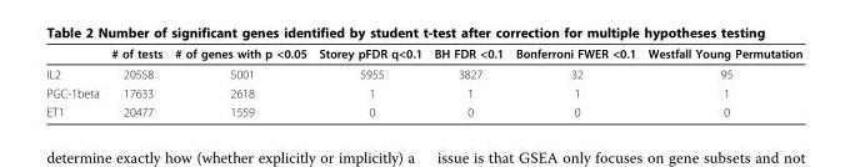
<table><thead><tr><td></td><td># of tests</td><td># of genes with p &lt;0.05</td><td>Storey pFDR q&lt;0.1</td><td>BH FDR &lt;0.1</td><td>Bonferroni FWER &lt;0.1</td><td>Westfall Young Permutation</td></tr></thead><tbody><tr><td>IL2</td><td>20558</td><td>5001</td><td>5955</td><td>3827</td><td>32</td><td>95</td></tr><tr><td>PGC-1beta</td><td>17633</td><td>2618</td><td>1</td><td>1</td><td>1</td><td>1</td></tr><tr><td>ET1</td><td>20477</td><td>1559</td><td>0</td><td>0</td><td>0</td><td>0</td></tr></tbody></table>